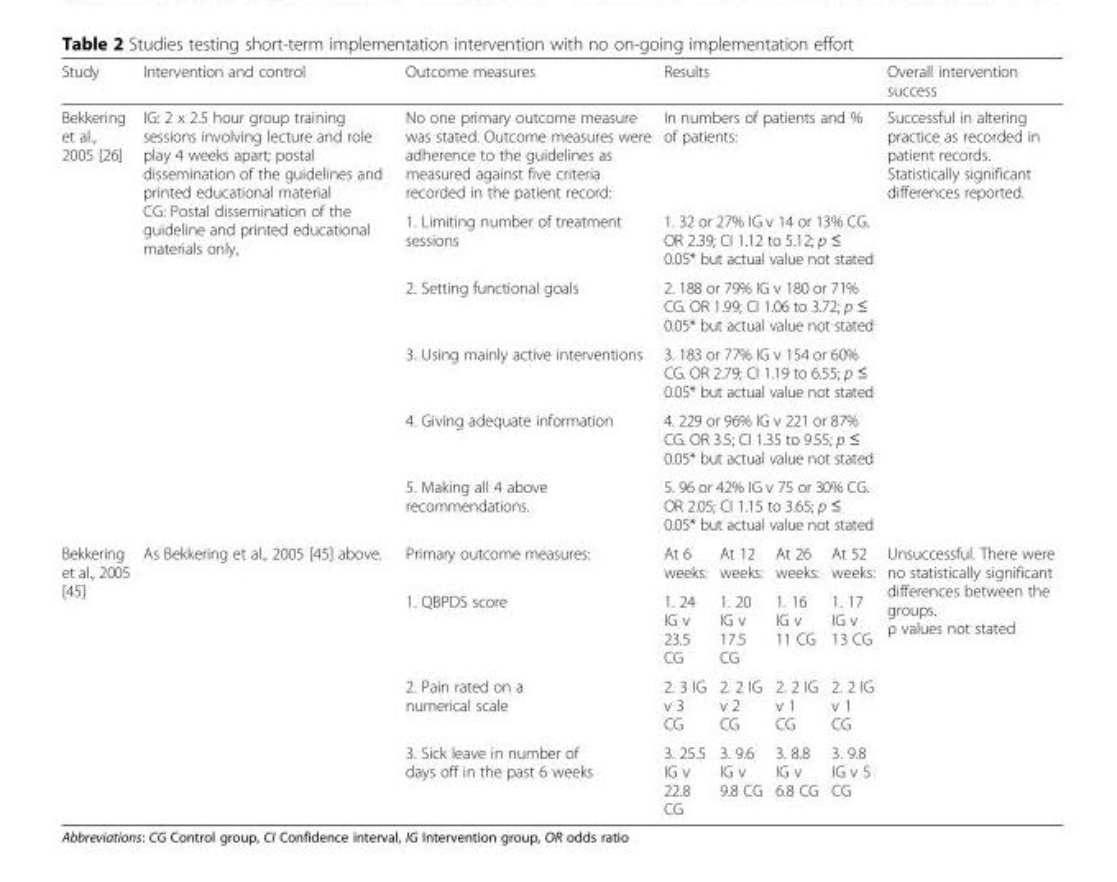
<table><thead><tr><td>Study</td><td>Intervention and control</td><td>Outcome measures</td><td colspan="4">Results</td><td>Overall intervention success</td></tr></thead><tbody><tr><td rowspan="6">Bekkering et al., 2005 [26]</td><td rowspan="6">IG: 2 x 2.5 hour group training sessions involving lecture and role play 4 weeks apart; postal dissemination of the guidelines and printed educational material CG: Postal dissemination of the guideline and printed educational materials only,</td><td>No one primary outcome measure was stated. Outcome measures were adherence to the guidelines as measured against five criteria recorded in the patient record:</td><td colspan="4">In numbers of patients and % of patients:</td><td rowspan="6">Successful in altering practice as recorded in patient records. Statistically significant differences reported.</td></tr><tr><td>1. Limiting number of treatment sessions</td><td colspan="4">1. 32 or 27% IG v 14 or 13% CG. OR 2.39; CI 1.12 to 5.12; p ≤ 0.05* but actual value not stated</td></tr><tr><td>2. Setting functional goals</td><td colspan="4">2. 188 or 79% IG v 180 or 71% CG. OR 1.99; CI 1.06 to 3.72; p ≤ 0.05* but actual value not stated</td></tr><tr><td>3. Using mainly active interventions</td><td colspan="4">3. 183 or 77% IG v 154 or 60% CG. OR 2.79; CI 1.19 to 6.55; p ≤ 0.05* but actual value not stated</td></tr><tr><td>4. Giving adequate information</td><td colspan="4">4. 229 or 96% IG v 221 or 87% CG. OR 3.5; CI 1.35 to 9.55; p ≤ 0.05* but actual value not stated</td></tr><tr><td>5. Making all 4 above recommendations.</td><td colspan="4">5. 96 or 42% IG v 75 or 30% CG. OR 2.05; CI 1.15 to 3.65; p ≤ 0.05* but actual value not stated</td></tr><tr><td rowspan="4">Bekkering et al., 2005 [45]</td><td rowspan="4">As Bekkering et al., 2005 [45] above.</td><td>Primary outcome measures:</td><td>At 6 weeks:</td><td>At 12 weeks:</td><td>At 26 weeks:</td><td>At 52 weeks:</td><td rowspan="4">Unsuccessful. There were no statistically significant differences between the groups. ρ values not stated</td></tr><tr><td>1. QBPDS score</td><td>1. 24 IG v 23.5 CG</td><td>1. 20 IG v 17.5 CG</td><td>1. 16 IG v 11 CG</td><td>1. 17 IG v 13 CG</td></tr><tr><td>2. Pain rated on a numerical scale</td><td>2. 3 IG v 3 CG</td><td>2. 2 IG v 2 CG</td><td>2. 2 IG v 1 CG</td><td>2. 2 IG v 1 CG</td></tr><tr><td>3. Sick leave in number of days off in the past 6 weeks</td><td>3. 25.5 IG v 22.8 CG</td><td>3. 9.6 IG v 9.8 CG</td><td>3. 8.8 IG v 6.8 CG</td><td>3. 9.8 IG v 5 CG</td></tr></tbody></table>